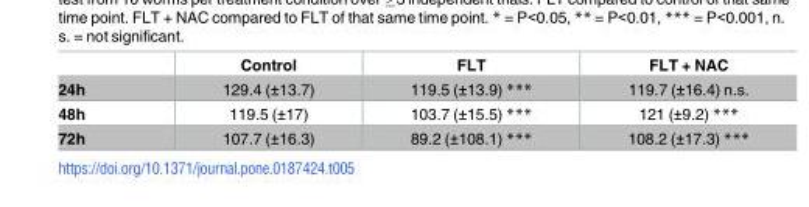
<table><thead><tr><td></td><td>Control</td><td>FLT</td><td>FLT + NAC</td></tr></thead><tbody><tr><td>24h</td><td>129.4 (±13.7)</td><td>119.5 (±13.9) ***</td><td>119.7 (±16.4) n.s.</td></tr><tr><td>48h</td><td>119.5 (±17)</td><td>103.7 (±15.5) ***</td><td>121 (±9.2) ***</td></tr><tr><td>72h</td><td>107.7 (±16.3)</td><td>89.2 (±108.1) ***</td><td>108.2 (±17.3) ***</td></tr></tbody></table>